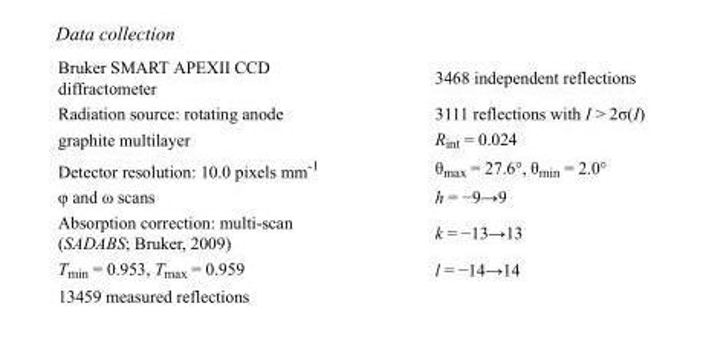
<table><tbody><tr><td>Bruker SMART APEXII CCD diffractometer</td><td>3468 independent reflections</td></tr><tr><td>Radiation source: rotating anode</td><td>3111 reflections with I &gt; 2σ(I)</td></tr><tr><td>graphite multilayer</td><td>R<sub>int</sub> = 0.024</td></tr><tr><td>Detector resolution: 10.0 pixels mm<sup>-1</sup></td><td>θ<sub>max</sub> = 27.6°, θ<sub>min</sub> = 2.0°</td></tr><tr><td>φ and ω scans</td><td>h = −9→9</td></tr><tr><td>Absorption correction: multi-scan (SADABS; Bruker, 2009)</td><td>k = −13→13</td></tr><tr><td>T<sub>min</sub> = 0.953, T<sub>max</sub> = 0.959</td><td>l = −14→14</td></tr><tr><td>13459 measured reflections</td><td></td></tr></tbody></table>